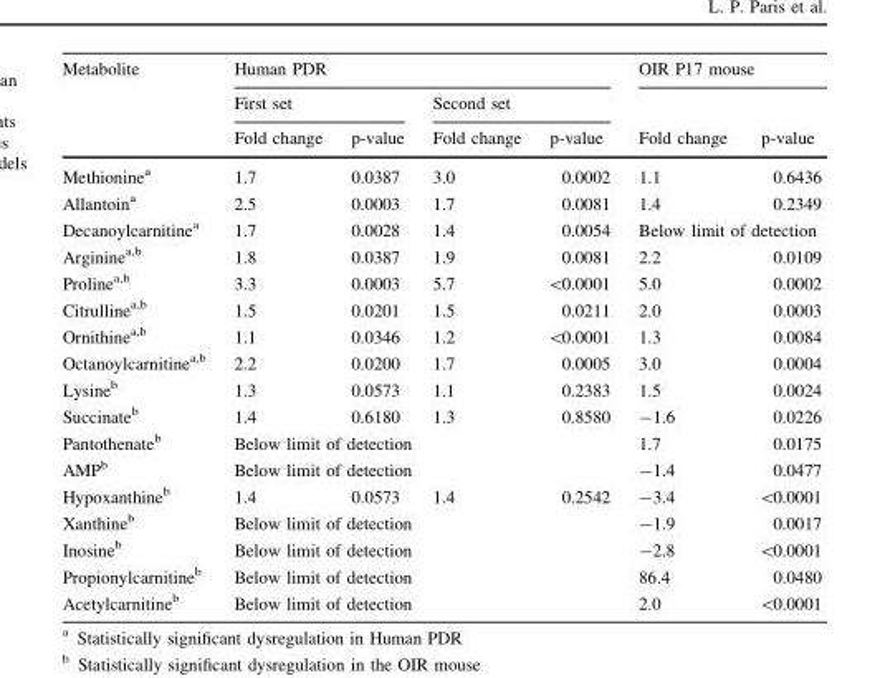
<table><thead><tr><td rowspan="3">Metabolite</td><td colspan="4">Human PDR</td><td colspan="2">OIR P17 mouse</td></tr><tr><td colspan="2">First set</td><td colspan="2">Second set</td><td rowspan="2">Fold change</td><td rowspan="2">p-value</td></tr><tr><td>Fold change</td><td>p-value</td><td>Fold change</td><td>p-value</td></tr></thead><tbody><tr><td>Methionine<sup>a</sup></td><td>1.7</td><td>0.0387</td><td>3.0</td><td>0.0002</td><td>1.1</td><td>0.6436</td></tr><tr><td>Allantoin<sup>a</sup></td><td>2.5</td><td>0.0003</td><td>1.7</td><td>0.0081</td><td>1.4</td><td>0.2349</td></tr><tr><td>Decanoylcarnitine<sup>a</sup></td><td>1.7</td><td>0.0028</td><td>1.4</td><td>0.0054</td><td colspan="2">Below limit of detection</td></tr><tr><td>Arginine<sup>a,b</sup></td><td>1.8</td><td>0.0387</td><td>1.9</td><td>0.0081</td><td>2.2</td><td>0.0109</td></tr><tr><td>Proline<sup>a,b</sup></td><td>3.3</td><td>0.0003</td><td>5.7</td><td>&lt;0.0001</td><td>5.0</td><td>0.0002</td></tr><tr><td>Citrulline<sup>a,b</sup></td><td>1.5</td><td>0.0201</td><td>1.5</td><td>0.0211</td><td>2.0</td><td>0.0003</td></tr><tr><td>Ornithine<sup>a,b</sup></td><td>1.1</td><td>0.0346</td><td>1.2</td><td>&lt;0.0001</td><td>1.3</td><td>0.0084</td></tr><tr><td>Octanoylcarnitine<sup>a,b</sup></td><td>2.2</td><td>0.0200</td><td>1.7</td><td>0.0005</td><td>3.0</td><td>0.0004</td></tr><tr><td>Lysine<sup>b</sup></td><td>1.3</td><td>0.0573</td><td>1.1</td><td>0.2383</td><td>1.5</td><td>0.0024</td></tr><tr><td>Succinate<sup>b</sup></td><td>1.4</td><td>0.6180</td><td>1.3</td><td>0.8580</td><td>-1.6</td><td>0.0226</td></tr><tr><td>Pantothenate<sup>b</sup></td><td colspan="4">Below limit of detection</td><td>1.7</td><td>0.0175</td></tr><tr><td>AMP<sup>b</sup></td><td colspan="4">Below limit of detection</td><td>-1.4</td><td>0.0477</td></tr><tr><td>Hypoxanthine<sup>b</sup></td><td>1.4</td><td>0.0573</td><td>1.4</td><td>0.2542</td><td>-3.4</td><td>&lt;0.0001</td></tr><tr><td>Xanthine<sup>b</sup></td><td colspan="4">Below limit of detection</td><td>-1.9</td><td>0.0017</td></tr><tr><td>Inosine<sup>b</sup></td><td colspan="4">Below limit of detection</td><td>-2.8</td><td>&lt;0.0001</td></tr><tr><td>Propionylcarnitine<sup>b</sup></td><td colspan="4">Below limit of detection</td><td>86.4</td><td>0.0480</td></tr><tr><td>Acetylcarnitine<sup>b</sup></td><td colspan="4">Below limit of detection</td><td>2.0</td><td>&lt;0.0001</td></tr></tbody></table>